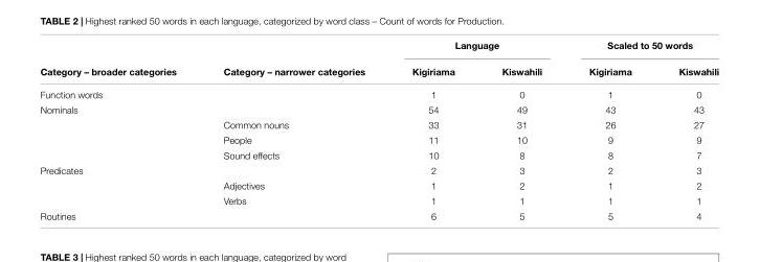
<table><thead><tr><td rowspan="2">Category – broader categories</td><td rowspan="2">Category – narrower categories</td><td colspan="2">Language</td><td colspan="2">Scaled to 50 words</td></tr><tr><td>Kigiriama</td><td>Kiswahili</td><td>Kigiriama</td><td>Kiswahili</td></tr></thead><tbody><tr><td>Function words</td><td></td><td>1</td><td>0</td><td>1</td><td>0</td></tr><tr><td rowspan="4">Nominals</td><td></td><td>54</td><td>49</td><td>43</td><td>43</td></tr><tr><td>Common nouns</td><td>33</td><td>31</td><td>26</td><td>27</td></tr><tr><td>People</td><td>11</td><td>10</td><td>9</td><td>9</td></tr><tr><td>Sound effects</td><td>10</td><td>8</td><td>8</td><td>7</td></tr><tr><td rowspan="3">Predicates</td><td></td><td>2</td><td>3</td><td>2</td><td>3</td></tr><tr><td>Adjectives</td><td>1</td><td>2</td><td>1</td><td>2</td></tr><tr><td>Verbs</td><td>1</td><td>1</td><td>1</td><td>1</td></tr><tr><td>Routines</td><td></td><td>6</td><td>5</td><td>5</td><td>4</td></tr></tbody></table>